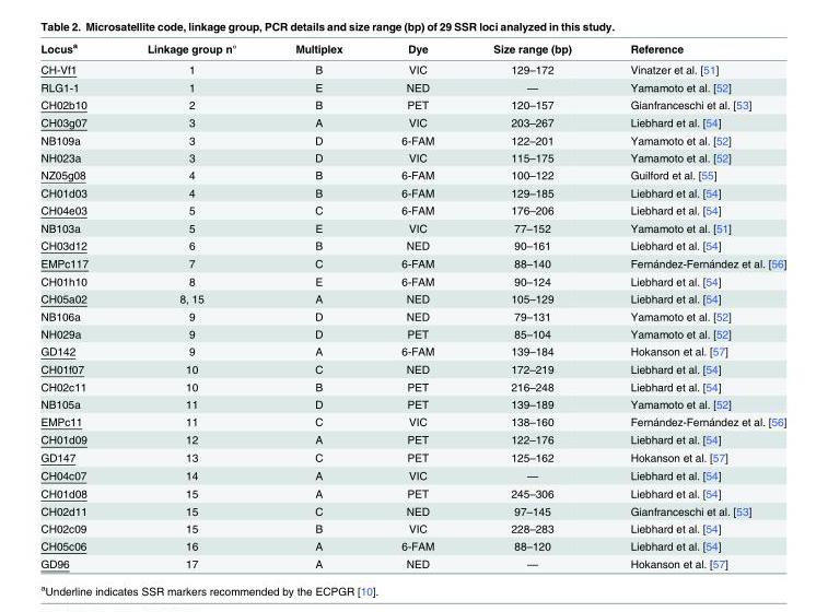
<table><thead><tr><td>Locus<sup>a</sup></td><td>Linkage group n°</td><td>Multiplex</td><td>Dye</td><td>Size range (bp)</td><td>Reference</td></tr></thead><tbody><tr><td>CH-Vf1</td><td>1</td><td>B</td><td>VIC</td><td>129–172</td><td>Vinatzer et al. [51]</td></tr><tr><td>RLG1-1</td><td>1</td><td>E</td><td>NED</td><td>—</td><td>Yamamoto et al. [52]</td></tr><tr><td>CH02b10</td><td>2</td><td>B</td><td>PET</td><td>120–157</td><td>Gianfranceschi et al. [53]</td></tr><tr><td>CH03g07</td><td>3</td><td>A</td><td>VIC</td><td>203–267</td><td>Liebhard et al. [54]</td></tr><tr><td>NB109a</td><td>3</td><td>D</td><td>6-FAM</td><td>122–201</td><td>Yamamoto et al. [52]</td></tr><tr><td>NH023a</td><td>3</td><td>D</td><td>VIC</td><td>115–175</td><td>Yamamoto et al. [52]</td></tr><tr><td>NZ05g08</td><td>4</td><td>B</td><td>6-FAM</td><td>100–122</td><td>Guilford et al. [55]</td></tr><tr><td>CH01d03</td><td>4</td><td>B</td><td>6-FAM</td><td>129–185</td><td>Liebhard et al. [54]</td></tr><tr><td>CH04e03</td><td>5</td><td>C</td><td>6-FAM</td><td>176–206</td><td>Liebhard et al. [54]</td></tr><tr><td>NB103a</td><td>5</td><td>E</td><td>VIC</td><td>77–152</td><td>Yamamoto et al. [51]</td></tr><tr><td>CH03d12</td><td>6</td><td>B</td><td>NED</td><td>90–161</td><td>Liebhard et al. [54]</td></tr><tr><td>EMPc117</td><td>7</td><td>C</td><td>6-FAM</td><td>88–140</td><td>Fernández-Fernández et al. [56]</td></tr><tr><td>CH01h10</td><td>8</td><td>E</td><td>6-FAM</td><td>90–124</td><td>Liebhard et al. [54]</td></tr><tr><td>CH05a02</td><td>8, 15</td><td>A</td><td>NED</td><td>105–129</td><td>Liebhard et al. [54]</td></tr><tr><td>NB106a</td><td>9</td><td>D</td><td>NED</td><td>79–131</td><td>Yamamoto et al. [52]</td></tr><tr><td>NH029a</td><td>9</td><td>D</td><td>PET</td><td>85–104</td><td>Yamamoto et al. [52]</td></tr><tr><td>GD142</td><td>9</td><td>A</td><td>6-FAM</td><td>139–184</td><td>Hokanson et al. [57]</td></tr><tr><td>CH01f07</td><td>10</td><td>C</td><td>NED</td><td>172–219</td><td>Liebhard et al. [54]</td></tr><tr><td>CH02c11</td><td>10</td><td>B</td><td>PET</td><td>216–248</td><td>Liebhard et al. [54]</td></tr><tr><td>NB105a</td><td>11</td><td>D</td><td>PET</td><td>139–189</td><td>Yamamoto et al. [52]</td></tr><tr><td>EMPc11</td><td>11</td><td>C</td><td>VIC</td><td>138–160</td><td>Fernández-Fernández et al. [56]</td></tr><tr><td>CH01d09</td><td>12</td><td>A</td><td>PET</td><td>122–176</td><td>Liebhard et al. [54]</td></tr><tr><td>GD147</td><td>13</td><td>C</td><td>PET</td><td>125–162</td><td>Hokanson et al. [57]</td></tr><tr><td>CH04c07</td><td>14</td><td>A</td><td>VIC</td><td>—</td><td>Liebhard et al. [54]</td></tr><tr><td>CH01d08</td><td>15</td><td>A</td><td>PET</td><td>245–306</td><td>Liebhard et al. [54]</td></tr><tr><td>CH02d11</td><td>15</td><td>C</td><td>NED</td><td>97–145</td><td>Gianfranceschi et al. [53]</td></tr><tr><td>CH02c09</td><td>15</td><td>B</td><td>VIC</td><td>228–283</td><td>Liebhard et al. [54]</td></tr><tr><td>CH05c06</td><td>16</td><td>A</td><td>6-FAM</td><td>88–120</td><td>Liebhard et al. [54]</td></tr><tr><td>GD96</td><td>17</td><td>A</td><td>NED</td><td>—</td><td>Hokanson et al. [57]</td></tr></tbody></table>